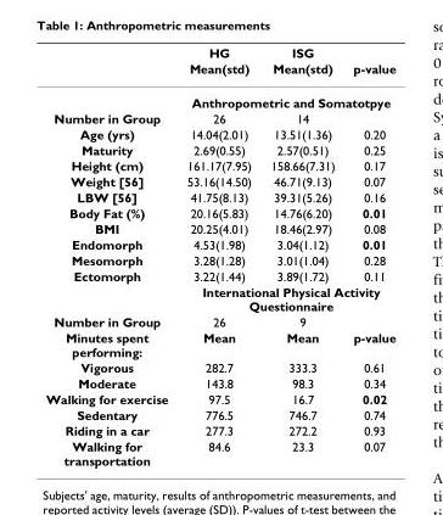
<table><thead><tr><td rowspan="2"></td><td rowspan="2">HG Mean(std)</td><td rowspan="2">ISG Mean(std)</td><td rowspan="2">p-value</td></tr><tr></tr></thead><tbody><tr><td></td><td colspan="3">Anthropometric and Somatotpye</td></tr><tr><td>Number in Group</td><td>26</td><td>14</td><td></td></tr><tr><td>Age (yrs)</td><td>14.04(2.01)</td><td>13.51(1.36)</td><td>0.20</td></tr><tr><td>Maturity</td><td>2.69(0.55)</td><td>2.57(0.51)</td><td>0.25</td></tr><tr><td>Height (cm)</td><td>161.17(7.95)</td><td>158.66(7.31)</td><td>0.17</td></tr><tr><td>Weight [56]</td><td>53.16(14.50)</td><td>46.71(9.13)</td><td>0.07</td></tr><tr><td>LBW [56]</td><td>41.75(8.13)</td><td>39.31(5.26)</td><td>0.16</td></tr><tr><td>Body Fat (%)</td><td>20.16(5.83)</td><td>14.76(6.20)</td><td>0.01</td></tr><tr><td>BMI</td><td>20.25(4.01)</td><td>18.46(2.97)</td><td>0.08</td></tr><tr><td>Endomorph</td><td>4.53(1.98)</td><td>3.04(1.12)</td><td>0.01</td></tr><tr><td>Mesomorph</td><td>3.28(1.28)</td><td>3.01(1.04)</td><td>0.28</td></tr><tr><td rowspan="2">Ectomorph</td><td>3.22(1.44)</td><td>3.89(1.72)</td><td>0.11</td></tr><tr><td colspan="3">International Physical Activity Questionnaire</td></tr><tr><td>Number in Group</td><td>26</td><td>9</td><td></td></tr><tr><td>Minutes spent performing:</td><td>Mean</td><td>Mean</td><td>p-value</td></tr><tr><td>Vigorous</td><td>282.7</td><td>333.3</td><td>0.61</td></tr><tr><td>Moderate</td><td>143.8</td><td>98.3</td><td>0.34</td></tr><tr><td>Walking for exercise</td><td>97.5</td><td>16.7</td><td>0.02</td></tr><tr><td>Sedentary</td><td>776.5</td><td>746.7</td><td>0.74</td></tr><tr><td>Riding in a car</td><td>277.3</td><td>272.2</td><td>0.93</td></tr><tr><td>Walking for transportation</td><td>84.6</td><td>23.3</td><td>0.07</td></tr></tbody></table>